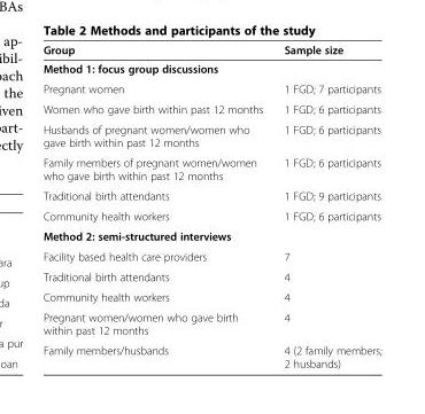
<table><thead><tr><td>Group</td><td>Sample size</td></tr></thead><tbody><tr><td colspan="2">Method 1: focus group discussions</td></tr><tr><td>Pregnant women</td><td>1 FGD; 7 participants</td></tr><tr><td>Women who gave birth within past 12 months</td><td>1 FGD; 6 participants</td></tr><tr><td>Husbands of pregnant women/women who gave birth within past 12 months</td><td>1 FGD; 6 participants</td></tr><tr><td>Family members of pregnant women/women who gave birth within past 12 months</td><td>1 FGD; 6 participants</td></tr><tr><td>Traditional birth attendants</td><td>1 FGD; 9 participants</td></tr><tr><td>Community health workers</td><td>1 FGD; 6 participants</td></tr><tr><td colspan="2">Method 2: semi-structured interviews</td></tr><tr><td>Facility based health care providers</td><td>7</td></tr><tr><td>Traditional birth attendants</td><td>4</td></tr><tr><td>Community health workers</td><td>4</td></tr><tr><td>Pregnant women/women who gave birth within past 12 months</td><td>4</td></tr><tr><td>Family members/husbands</td><td>4 (2 family members; 2 husbands)</td></tr></tbody></table>